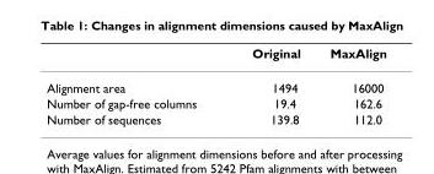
<table><thead><tr><td></td><td>Original</td><td>MaxAlign</td></tr></thead><tbody><tr><td>Alignment area</td><td>1494</td><td>16000</td></tr><tr><td>Number of gap-free columns</td><td>19.4</td><td>162.6</td></tr><tr><td>Number of sequences</td><td>139.8</td><td>112.0</td></tr></tbody></table>